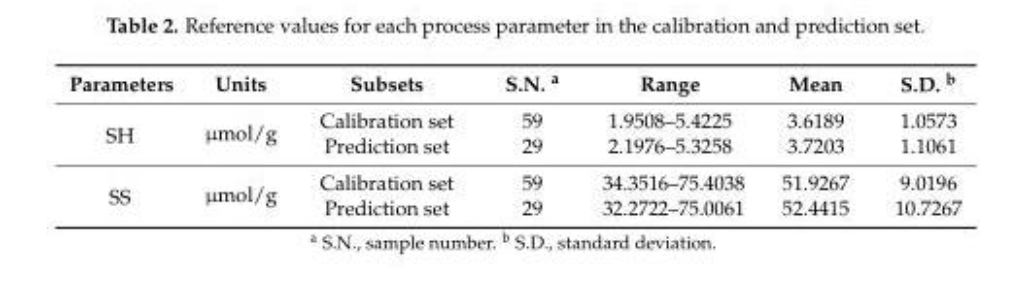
<table><thead><tr><td>Parameters</td><td>Units</td><td>Subsets</td><td>S.N. <sup>a</sup></td><td>Range</td><td>Mean</td><td>S.D. <sup>b</sup></td></tr></thead><tbody><tr><td rowspan="2">SH</td><td rowspan="2">µmol/g</td><td>Calibration set</td><td>59</td><td>1.9508–5.4225</td><td>3.6189</td><td>1.0573</td></tr><tr><td>Prediction set</td><td>29</td><td>2.1976–5.3258</td><td>3.7203</td><td>1.1061</td></tr><tr><td rowspan="2">SS</td><td rowspan="2">µmol/g</td><td>Calibration set</td><td>59</td><td>34.3516–75.4038</td><td>51.9267</td><td>9.0196</td></tr><tr><td>Prediction set</td><td>29</td><td>32.2722–75.0061</td><td>52.4415</td><td>10.7267</td></tr></tbody></table>